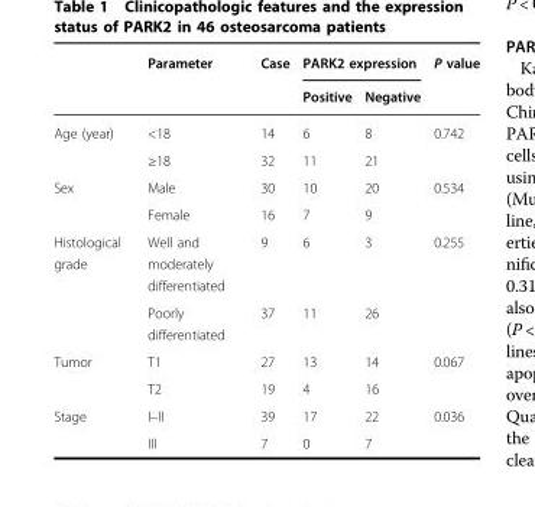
<table><thead><tr><td rowspan="2"></td><td rowspan="2">Parameter</td><td rowspan="2">Case</td><td colspan="2">PARK2 expression</td><td rowspan="2">P value</td></tr><tr><td>Positive</td><td>Negative</td></tr></thead><tbody><tr><td rowspan="2">Age (year)</td><td>&lt;18</td><td>14</td><td>6</td><td>8</td><td>0.742</td></tr><tr><td>≥18</td><td>32</td><td>11</td><td>21</td><td></td></tr><tr><td rowspan="2">Sex</td><td>Male</td><td>30</td><td>10</td><td>20</td><td>0.534</td></tr><tr><td>Female</td><td>16</td><td>7</td><td>9</td><td></td></tr><tr><td rowspan="2">Histological grade</td><td>Well and moderately differentiated</td><td>9</td><td>6</td><td>3</td><td>0.255</td></tr><tr><td>Poorly differentiated</td><td>37</td><td>11</td><td>26</td><td></td></tr><tr><td rowspan="2">Tumor</td><td>T1</td><td>27</td><td>13</td><td>14</td><td>0.067</td></tr><tr><td>T2</td><td>19</td><td>4</td><td>16</td><td></td></tr><tr><td rowspan="2">Stage</td><td>I–II</td><td>39</td><td>17</td><td>22</td><td>0.036</td></tr><tr><td>III</td><td>7</td><td>0</td><td>7</td><td></td></tr></tbody></table>